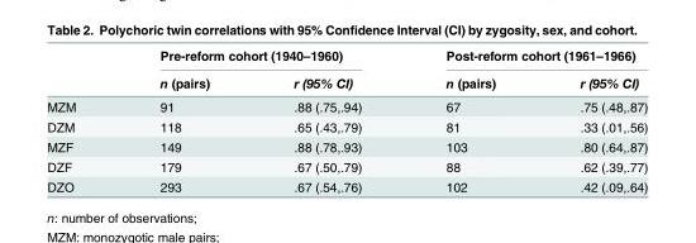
<table><thead><tr><td rowspan="2"></td><td colspan="2">Pre-reform cohort (1940–1960)</td><td colspan="2">Post-reform cohort (1961–1966)</td></tr><tr><td>n (pairs)</td><td>r (95% CI)</td><td>n (pairs)</td><td>r (95% CI)</td></tr></thead><tbody><tr><td>MZM</td><td>91</td><td>.88 (.75,.94)</td><td>67</td><td>.75 (.48,.87)</td></tr><tr><td>DZM</td><td>118</td><td>.65 (.43,.79)</td><td>81</td><td>.33 (.01,.56)</td></tr><tr><td>MZF</td><td>149</td><td>.88 (.78,.93)</td><td>103</td><td>.80 (.64,.87)</td></tr><tr><td>DZF</td><td>179</td><td>.67 (.50,.79)</td><td>88</td><td>.62 (.39,.77)</td></tr><tr><td>DZO</td><td>293</td><td>.67 (.54,.76)</td><td>102</td><td>.42 (.09,.64)</td></tr></tbody></table>